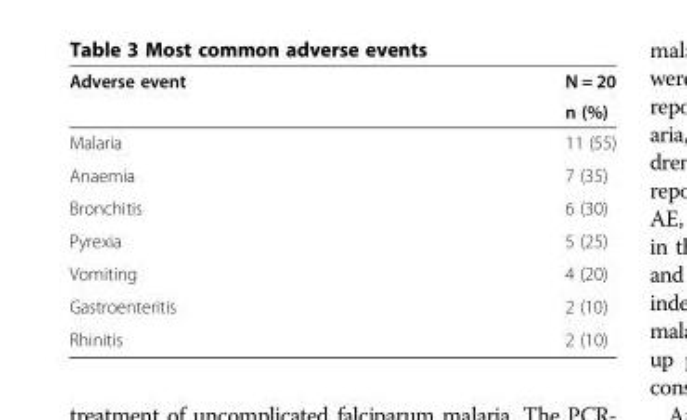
<table><thead><tr><td rowspan="2">Adverse event</td><td rowspan="2">N = 20 n (%)</td></tr><tr></tr></thead><tbody><tr><td>Malaria</td><td>11 (55)</td></tr><tr><td>Anaemia</td><td>7 (35)</td></tr><tr><td>Bronchitis</td><td>6 (30)</td></tr><tr><td>Pyrexia</td><td>5 (25)</td></tr><tr><td>Vomiting</td><td>4 (20)</td></tr><tr><td>Gastroenteritis</td><td>2 (10)</td></tr><tr><td>Rhinitis</td><td>2 (10)</td></tr></tbody></table>